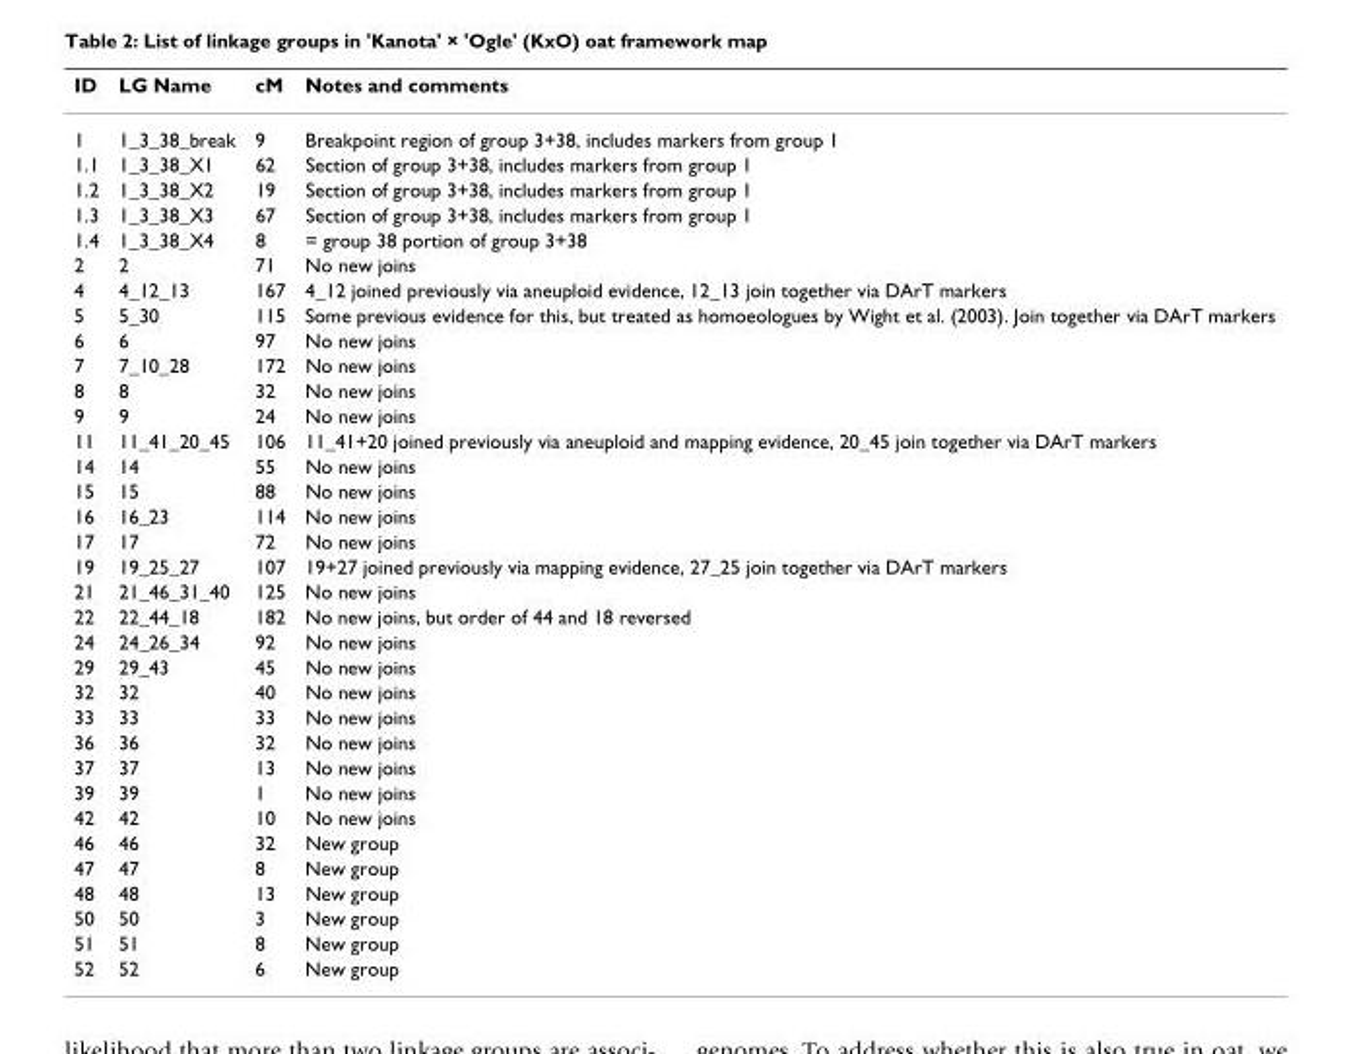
<table><thead><tr><td>ID</td><td>LG Name</td><td>cM</td><td>Notes and comments</td></tr></thead><tbody><tr><td>1</td><td>1_3_38_break</td><td>9</td><td>Breakpoint region of group 3+38, includes markers from group 1</td></tr><tr><td>1.1</td><td>1_3_38_X1</td><td>62</td><td>Section of group 3+38, includes markers from group 1</td></tr><tr><td>1.2</td><td>1_3_38_X2</td><td>19</td><td>Section of group 3+38, includes markers from group 1</td></tr><tr><td>1.3</td><td>1_3_38_X3</td><td>67</td><td>Section of group 3+38, includes markers from group 1</td></tr><tr><td>1.4</td><td>1_3_38_X4</td><td>8</td><td>= group 38 portion of group 3+38</td></tr><tr><td>2</td><td>2</td><td>71</td><td>No new joins</td></tr><tr><td>4</td><td>4_12_13</td><td>167</td><td>4_12 joined previously via aneuploid evidence, 12_13 join together via DArT markers</td></tr><tr><td>5</td><td>5_30</td><td>115</td><td>Some previous evidence for this, but treated as homoeologues by Wight et al. (2003). Join together via DArT markers</td></tr><tr><td>6</td><td>6</td><td>97</td><td>No new joins</td></tr><tr><td>7</td><td>7_10_28</td><td>172</td><td>No new joins</td></tr><tr><td>8</td><td>8</td><td>32</td><td>No new joins</td></tr><tr><td>9</td><td>9</td><td>24</td><td>No new joins</td></tr><tr><td>11</td><td>11_41_20_45</td><td>106</td><td>11_41+20 joined previously via aneuploid and mapping evidence, 20_45 join together via DArT markers</td></tr><tr><td>14</td><td>14</td><td>55</td><td>No new joins</td></tr><tr><td>15</td><td>15</td><td>88</td><td>No new joins</td></tr><tr><td>16</td><td>16_23</td><td>114</td><td>No new joins</td></tr><tr><td>17</td><td>17</td><td>72</td><td>No new joins</td></tr><tr><td>19</td><td>19_25_27</td><td>107</td><td>19+27 joined previously via mapping evidence, 27_25 join together via DArT markers</td></tr><tr><td>21</td><td>21_46_31_40</td><td>125</td><td>No new joins</td></tr><tr><td>22</td><td>22_44_18</td><td>182</td><td>No new joins, but order of 44 and 18 reversed</td></tr><tr><td>24</td><td>24_26_34</td><td>92</td><td>No new joins</td></tr><tr><td>29</td><td>29_43</td><td>45</td><td>No new joins</td></tr><tr><td>32</td><td>32</td><td>40</td><td>No new joins</td></tr><tr><td>33</td><td>33</td><td>33</td><td>No new joins</td></tr><tr><td>36</td><td>36</td><td>32</td><td>No new joins</td></tr><tr><td>37</td><td>37</td><td>13</td><td>No new joins</td></tr><tr><td>39</td><td>39</td><td>1</td><td>No new joins</td></tr><tr><td>42</td><td>42</td><td>10</td><td>No new joins</td></tr><tr><td>46</td><td>46</td><td>32</td><td>New group</td></tr><tr><td>47</td><td>47</td><td>8</td><td>New group</td></tr><tr><td>48</td><td>48</td><td>13</td><td>New group</td></tr><tr><td>50</td><td>50</td><td>3</td><td>New group</td></tr><tr><td>51</td><td>51</td><td>8</td><td>New group</td></tr><tr><td>52</td><td>52</td><td>6</td><td>New group</td></tr></tbody></table>